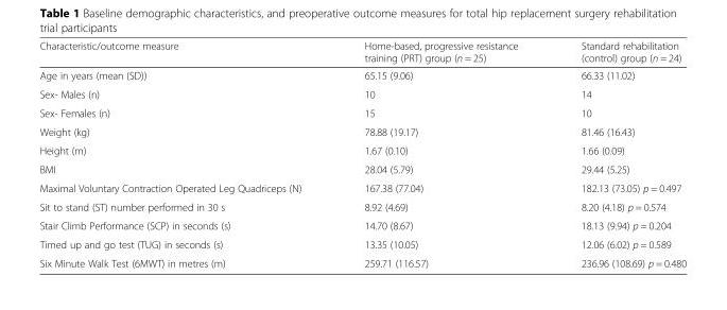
<table><thead><tr><td>Characteristic/outcome measure</td><td>Home-based, progressive resistance training (PRT) group (n = 25)</td><td>Standard rehabilitation (control) group (n = 24)</td></tr></thead><tbody><tr><td>Age in years (mean (SD))</td><td>65.15 (9.06)</td><td>66.33 (11.02)</td></tr><tr><td>Sex- Males (n)</td><td>10</td><td>14</td></tr><tr><td>Sex- Females (n)</td><td>15</td><td>10</td></tr><tr><td>Weight (kg)</td><td>78.88 (19.17)</td><td>81.46 (16.43)</td></tr><tr><td>Height (m)</td><td>1.67 (0.10)</td><td>1.66 (0.09)</td></tr><tr><td>BMI</td><td>28.04 (5.79)</td><td>29.44 (5.25)</td></tr><tr><td>Maximal Voluntary Contraction Operated Leg Quadriceps (N)</td><td>167.38 (77.04)</td><td>182.13 (73.05) p = 0.497</td></tr><tr><td>Sit to stand (ST) number performed in 30 s</td><td>8.92 (4.69)</td><td>8.20 (4.18) p = 0.574</td></tr><tr><td>Stair Climb Performance (SCP) in seconds (s)</td><td>14.70 (8.67)</td><td>18.13 (9.94) p = 0.204</td></tr><tr><td>Timed up and go test (TUG) in seconds (s)</td><td>13.35 (10.05)</td><td>12.06 (6.02) p = 0.589</td></tr><tr><td>Six Minute Walk Test (6MWT) in metres (m)</td><td>259.71 (116.57)</td><td>236.96 (108.69) p = 0.480</td></tr></tbody></table>